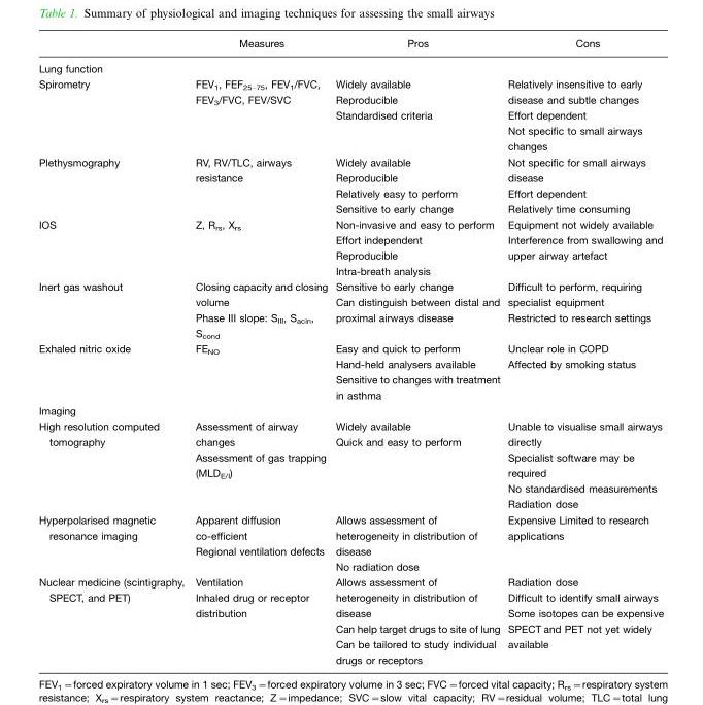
<table><thead><tr><td></td><td>Measures</td><td>Pros</td><td>Cons</td></tr></thead><tbody><tr><td colspan="4">Lung function</td></tr><tr><td>Spirometry</td><td>FEV<sub>1</sub>, FEF<sub>25–75</sub>, FEV<sub>1</sub>/FVC, FEV<sub>3</sub>/FVC, FEV/SVC</td><td>Widely available Reproducible Standardised criteria</td><td>Relatively insensitive to early disease and subtle changes Effort dependent Not specific to small airways changes</td></tr><tr><td>Plethysmography</td><td>RV, RV/TLC, airways resistance</td><td>Widely available Reproducible Relatively easy to perform Sensitive to early change</td><td>Not specific for small airways disease Effort dependent Relatively time consuming</td></tr><tr><td>IOS</td><td>Z, R<sub>rs</sub>, X<sub>rs</sub></td><td>Non-invasive and easy to perform Effort independent Reproducible Intra-breath analysis</td><td>Equipment not widely available Interference from swallowing and upper airway artefact</td></tr><tr><td>Inert gas washout</td><td>Closing capacity and closing volume Phase III slope: S<sub>III</sub>, S<sub>acin</sub>, S<sub>cond</sub></td><td>Sensitive to early change Can distinguish between distal and proximal airways disease</td><td>Difficult to perform, requiring specialist equipment Restricted to research settings</td></tr><tr><td>Exhaled nitric oxide</td><td>FE<sub>NO</sub></td><td>Easy and quick to perform Hand-held analysers available Sensitive to changes with treatment in asthma</td><td>Unclear role in COPD Affected by smoking status</td></tr><tr><td colspan="4">Imaging</td></tr><tr><td>High resolution computed tomography</td><td>Assessment of airway changes Assessment of gas trapping (MLD<sub>E/I</sub>)</td><td>Widely available Quick and easy to perform</td><td>Unable to visualise small airways directly Specialist software may be required No standardised measurements Radiation dose</td></tr><tr><td>Hyperpolarised magnetic resonance imaging</td><td>Apparent diffusion co-efficient Regional ventilation defects</td><td>Allows assessment of heterogeneity in distribution of disease No radiation dose</td><td>Expensive Limited to research applications</td></tr><tr><td>Nuclear medicine (scintigraphy, SPECT, and PET)</td><td>Ventilation Inhaled drug or receptor distribution</td><td>Allows assessment of heterogeneity in distribution of disease Can help target drugs to site of lung Can be tailored to study individual drugs or receptors</td><td>Radiation dose Difficult to identify small airways Some isotopes can be expensive SPECT and PET not yet widely available</td></tr></tbody></table>